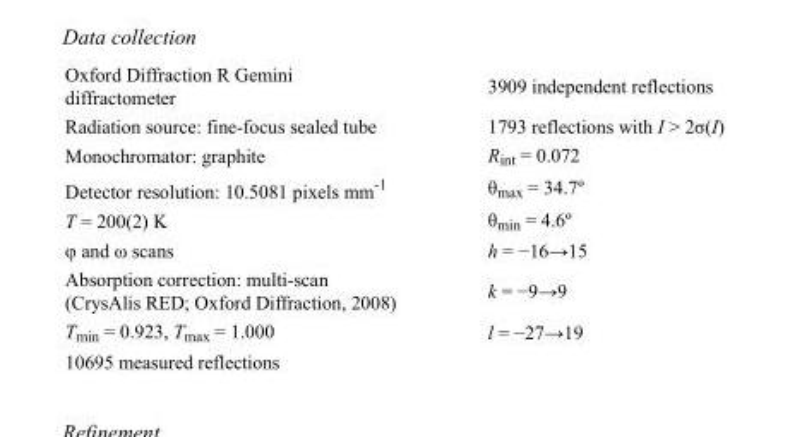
<table><tbody><tr><td>Oxford Diffraction R Gemini diffractometer</td><td>3909 independent reflections</td></tr><tr><td>Radiation source: fine-focus sealed tube</td><td>1793 reflections with I &gt; 2σ(I)</td></tr><tr><td>Monochromator: graphite</td><td>R<sub>int</sub> = 0.072</td></tr><tr><td>Detector resolution: 10.5081 pixels mm<sup>-1</sup></td><td>θ<sub>max</sub> = 34.7º</td></tr><tr><td>T = 200(2) K</td><td>θ<sub>min</sub> = 4.6º</td></tr><tr><td>φ and ω scans</td><td>h = −16→15</td></tr><tr><td>Absorption correction: multi-scan (CrysAlis RED; Oxford Diffraction, 2008)</td><td>k = −9→9</td></tr><tr><td>T<sub>min</sub> = 0.923, T<sub>max</sub> = 1.000</td><td>l = −27→19</td></tr><tr><td>10695 measured reflections</td><td></td></tr></tbody></table>